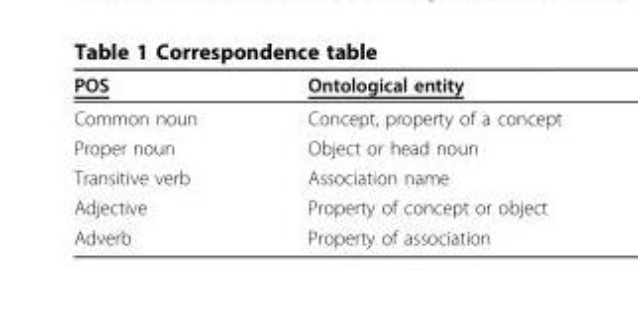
<table><thead><tr><td>POS</td><td>Ontological entity</td></tr></thead><tbody><tr><td>Common noun</td><td>Concept, property of a concept</td></tr><tr><td>Proper noun</td><td>Object or head noun</td></tr><tr><td>Transitive verb</td><td>Association name</td></tr><tr><td>Adjective</td><td>Property of concept or object</td></tr><tr><td>Adverb</td><td>Property of association</td></tr></tbody></table>